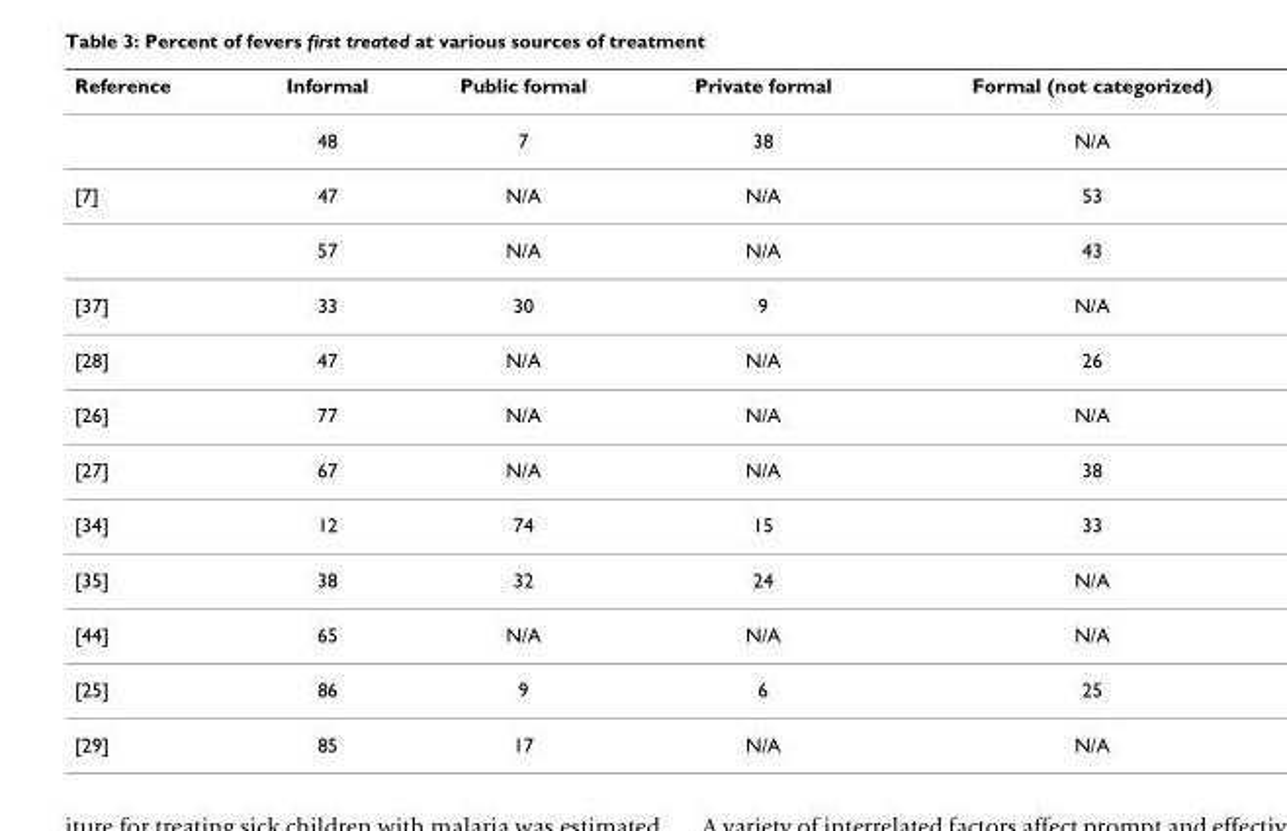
<table><thead><tr><td>Reference</td><td>Informal</td><td>Public formal</td><td>Private formal</td><td>Formal (not categorized)</td></tr></thead><tbody><tr><td></td><td>48</td><td>7</td><td>38</td><td>N/A</td></tr><tr><td rowspan="2">[7]</td><td>47</td><td>N/A</td><td>N/A</td><td>53</td></tr><tr><td>57</td><td>N/A</td><td>N/A</td><td>43</td></tr><tr><td>[37]</td><td>33</td><td>30</td><td>9</td><td>N/A</td></tr><tr><td>[28]</td><td>47</td><td>N/A</td><td>N/A</td><td>26</td></tr><tr><td>[26]</td><td>77</td><td>N/A</td><td>N/A</td><td>N/A</td></tr><tr><td>[27]</td><td>67</td><td>N/A</td><td>N/A</td><td>38</td></tr><tr><td>[34]</td><td>12</td><td>74</td><td>15</td><td>33</td></tr><tr><td>[35]</td><td>38</td><td>32</td><td>24</td><td>N/A</td></tr><tr><td>[44]</td><td>65</td><td>N/A</td><td>N/A</td><td>N/A</td></tr><tr><td>[25]</td><td>86</td><td>9</td><td>6</td><td>25</td></tr><tr><td>[29]</td><td>85</td><td>17</td><td>N/A</td><td>N/A</td></tr></tbody></table>